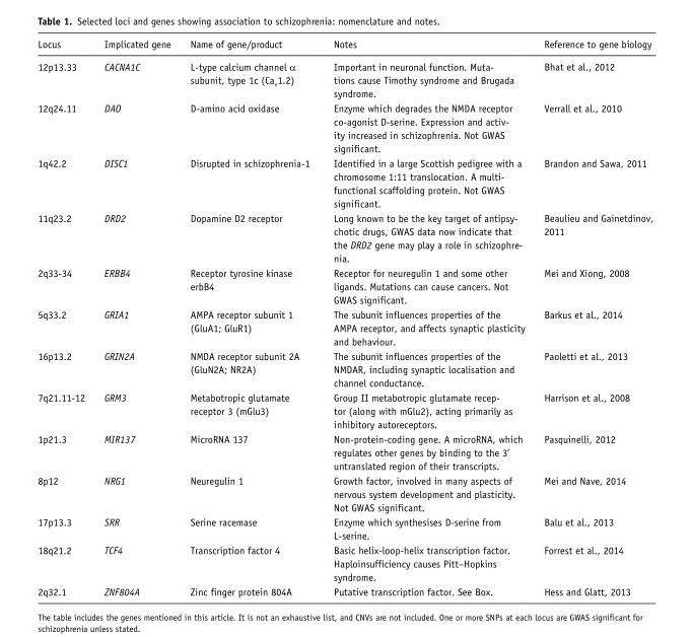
<table><thead><tr><td>Locus</td><td>Implicated gene</td><td>Name of gene/product</td><td>Notes</td><td>Reference to gene biology</td></tr></thead><tbody><tr><td>12p13.33</td><td>CACNA1C</td><td>L-type calcium channel α subunit, type 1c (Ca<sub>v</sub>1.2)</td><td>Important in neuronal function. Muta- tions cause Timothy syndrome and Brugada syndrome.</td><td>Bhat et al., 2012</td></tr><tr><td>12q24.11</td><td>DAO</td><td>D-amino acid oxidase</td><td>Enzyme which degrades the NMDA receptor co-agonist D-serine. Expression and activ- ity increased in schizophrenia. Not GWAS significant.</td><td>Verrall et al., 2010</td></tr><tr><td>1q42.2</td><td>DISC1</td><td>Disrupted in schizophrenia-1</td><td>Identified in a large Scottish pedigree with a chromosome 1:11 translocation. A multi- functional scaffolding protein. Not GWAS significant.</td><td>Brandon and Sawa, 2011</td></tr><tr><td>11q23.2</td><td>DRD2</td><td>Dopamine D2 receptor</td><td>Long known to be the key target of antipsy- chotic drugs, GWAS data now indicate that the DRD2 gene may play a role in schizophre- nia.</td><td>Beaulieu and Gainetdinov, 2011</td></tr><tr><td>2q33-34</td><td>ERBB4</td><td>Receptor tyrosine kinase erbB4</td><td>Receptor for neuregulin 1 and some other ligands. Mutations can cause cancers. Not GWAS significant.</td><td>Mei and Xiong, 2008</td></tr><tr><td>5q33.2</td><td>GRIA1</td><td>AMPA receptor subunit 1 (GluA1; GluR1)</td><td>The subunit influences properties of the AMPA receptor, and affects synaptic plasticity and behaviour.</td><td>Barkus et al., 2014</td></tr><tr><td>16p13.2</td><td>GRIN2A</td><td>NMDA receptor subunit 2A (GluN2A; NR2A)</td><td>The subunit influences properties of the NMDAR, including synaptic localisation and channel conductance.</td><td>Paoletti et al., 2013</td></tr><tr><td>7q21.11-12</td><td>GRM3</td><td>Metabotropic glutamate receptor 3 (mGlu3)</td><td>Group II metabotropic glutamate recep- tor (along with mGlu2), acting primarily as inhibitory autoreceptors.</td><td>Harrison et al., 2008</td></tr><tr><td>1p21.3</td><td>MIR137</td><td>MicroRNA 137</td><td>Non-protein-coding gene. A microRNA, which regulates other genes by binding to the 3’ untranslated region of their transcripts.</td><td>Pasquinelli, 2012</td></tr><tr><td>8p12</td><td>NRG1</td><td>Neuregulin 1</td><td>Growth factor, involved in many aspects of nervous system development and plasticity. Not GWAS significant.</td><td>Mei and Nave, 2014</td></tr><tr><td>17p13.3</td><td>SRR</td><td>Serine racemase</td><td>Enzyme which synthesises D-serine from L-serine.</td><td>Balu et al., 2013</td></tr><tr><td>18q21.2</td><td>TCF4</td><td>Transcription factor 4</td><td>Basic helix-loop-helix transcription factor. Haploinsufficiency causes Pitt–Hopkins syndrome.</td><td>Forrest et al., 2014</td></tr><tr><td>2q32.1</td><td>ZNF804A</td><td>Zinc finger protein 804A</td><td>Putative transcription factor. See Box.</td><td>Hess and Glatt, 2013</td></tr></tbody></table>